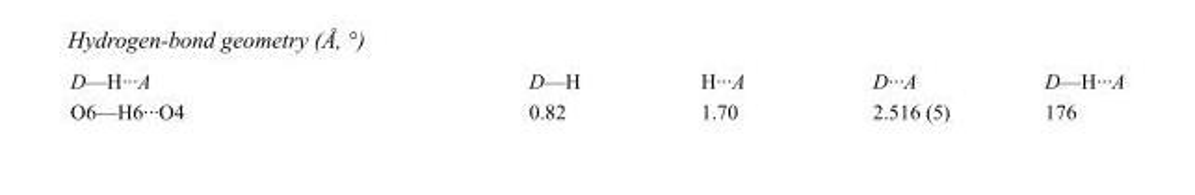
<table><tbody><tr><td>D—H···A</td><td>D—H</td><td>H···A</td><td>D···A</td><td>D—H···A</td></tr><tr><td>O6—H6···O4</td><td>0.82</td><td>1.70</td><td>2.516 (5)</td><td>176</td></tr></tbody></table>